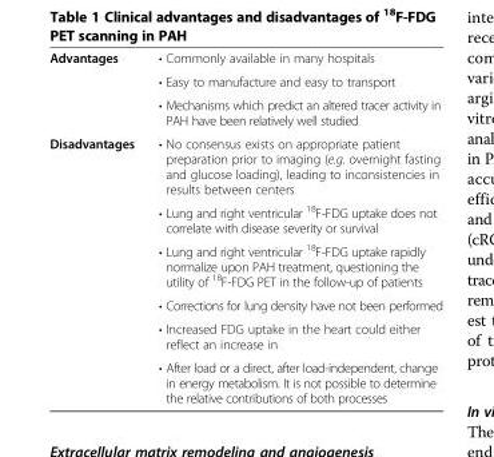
<table><tbody><tr><td rowspan="3">Advantages</td><td>• Commonly available in many hospitals</td></tr><tr><td>• Easy to manufacture and easy to transport</td></tr><tr><td>• Mechanisms which predict an altered tracer activity in PAH have been relatively well studied</td></tr><tr><td rowspan="6">Disadvantages</td><td>• No consensus exists on appropriate patient preparation prior to imaging (e.g. overnight fasting and glucose loading), leading to inconsistencies in results between centers</td></tr><tr><td>• Lung and right ventricular <sup>18</sup>F-FDG uptake does not correlate with disease severity or survival</td></tr><tr><td>• Lung and right ventricular <sup>18</sup>F-FDG uptake rapidly normalize upon PAH treatment, questioning the utility of <sup>18</sup>F-FDG PET in the follow-up of patients</td></tr><tr><td>• Corrections for lung density have not been performed</td></tr><tr><td>• Increased FDG uptake in the heart could either reflect an increase in</td></tr><tr><td>• After load or a direct, after load-independent, change in energy metabolism. It is not possible to determine the relative contributions of both processes</td></tr></tbody></table>